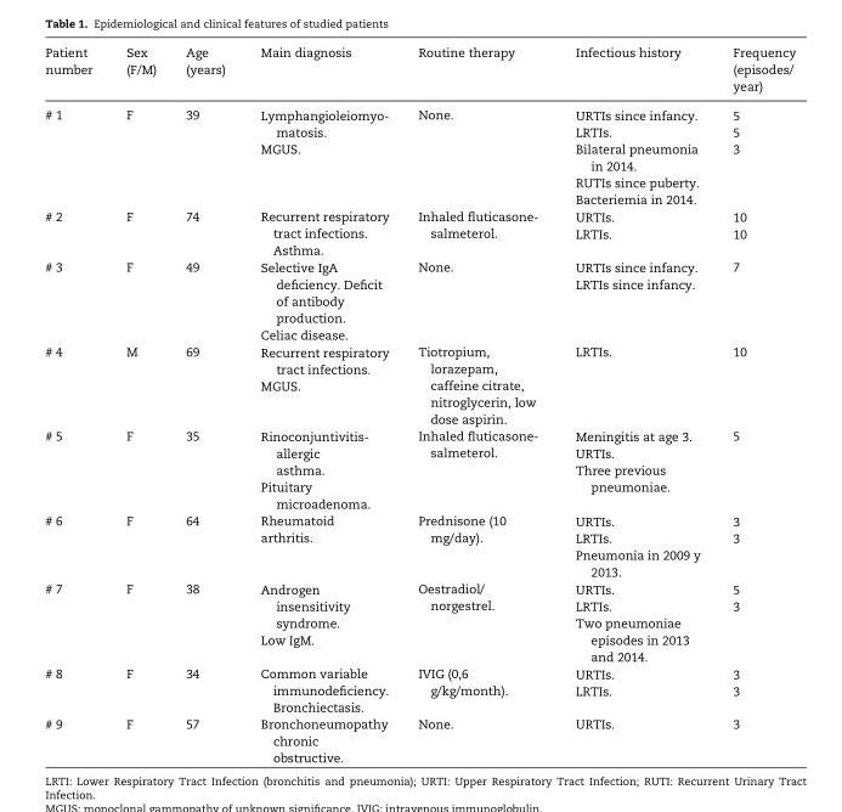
<table><thead><tr><td>Patient number</td><td>Sex (F/M)</td><td>Age (years)</td><td>Main diagnosis</td><td>Routine therapy</td><td>Infectious history</td><td>Frequency (episodes/ year)</td></tr></thead><tbody><tr><td># 1</td><td>F</td><td>39</td><td>Lymphangioleiomyo- matosis. MGUS.</td><td>None.</td><td>URTIs since infancy. LRTIs. Bilateral pneumonia in 2014. RUTIs since puberty. Bacteriemia in 2014.</td><td>5 5 3</td></tr><tr><td># 2</td><td>F</td><td>74</td><td>Recurrent respiratory tract infections. Asthma.</td><td>Inhaled fluticasone- salmeterol.</td><td>URTIs. LRTIs.</td><td>10 10</td></tr><tr><td># 3</td><td>F</td><td>49</td><td>Selective IgA deficiency. Deficit of antibody production. Celiac disease.</td><td>None.</td><td>URTIs since infancy. LRTIs since infancy.</td><td>7</td></tr><tr><td># 4</td><td>M</td><td>69</td><td>Recurrent respiratory tract infections. MGUS.</td><td>Tiotropium, lorazepam, caffeine citrate, nitroglycerin, low dose aspirin.</td><td>LRTIs.</td><td>10</td></tr><tr><td># 5</td><td>F</td><td>35</td><td>Rinoconjuntivitis- allergic asthma. Pituitary microadenoma.</td><td>Inhaled fluticasone- salmeterol.</td><td>Meningitis at age 3. URTIs. Three previous pneumoniae.</td><td>5</td></tr><tr><td># 6</td><td>F</td><td>64</td><td>Rheumatoid arthritis.</td><td>Prednisone (10 mg/day).</td><td>URTIs. LRTIs. Pneumonia in 2009 y 2013.</td><td>3 3</td></tr><tr><td># 7</td><td>F</td><td>38</td><td>Androgen insensitivity syndrome. Low IgM.</td><td>Oestradiol/ norgestrel.</td><td>URTIs. LRTIs. Two pneumoniae episodes in 2013 and 2014.</td><td>5 3</td></tr><tr><td># 8</td><td>F</td><td>34</td><td>Common variable immunodeficiency. Bronchiectasis.</td><td>IVIG (0,6 g/kg/month).</td><td>URTIs. LRTIs.</td><td>3 3</td></tr><tr><td># 9</td><td>F</td><td>57</td><td>Bronchoneumopathy chronic obstructive.</td><td>None.</td><td>URTIs.</td><td>3</td></tr></tbody></table>